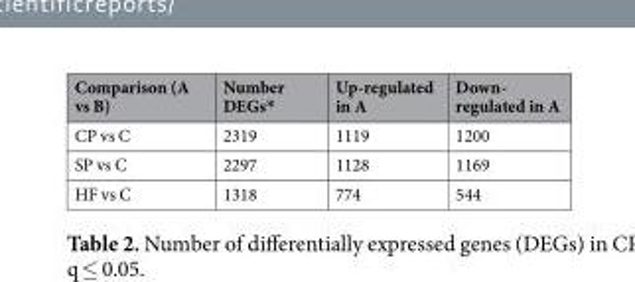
<table><thead><tr><td>Comparison (A vs B)</td><td>Number DEGs*</td><td>Up-regulated in A</td><td>Down- regulated in A</td></tr></thead><tbody><tr><td>CP vs C</td><td>2319</td><td>1119</td><td>1200</td></tr><tr><td>SP vs C</td><td>2297</td><td>1128</td><td>1169</td></tr><tr><td>HF vs C</td><td>1318</td><td>774</td><td>544</td></tr></tbody></table>